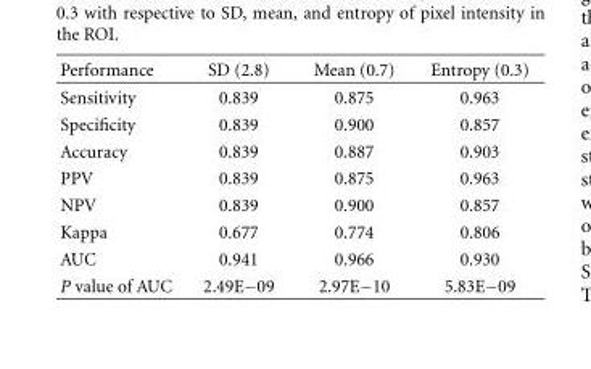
<table><thead><tr><td>Performance</td><td>SD (2.8)</td><td>Mean (0.7)</td><td>Entropy (0.3)</td></tr></thead><tbody><tr><td>Sensitivity</td><td>0.839</td><td>0.875</td><td>0.963</td></tr><tr><td>Specificity</td><td>0.839</td><td>0.900</td><td>0.857</td></tr><tr><td>Accuracy</td><td>0.839</td><td>0.887</td><td>0.903</td></tr><tr><td>PPV</td><td>0.839</td><td>0.875</td><td>0.963</td></tr><tr><td>NPV</td><td>0.839</td><td>0.900</td><td>0.857</td></tr><tr><td>Kappa</td><td>0.677</td><td>0.774</td><td>0.806</td></tr><tr><td>AUC</td><td>0.941</td><td>0.966</td><td>0.930</td></tr><tr><td>P value of AUC</td><td>2.49E−09</td><td>2.97E−10</td><td>5.83E−09</td></tr></tbody></table>